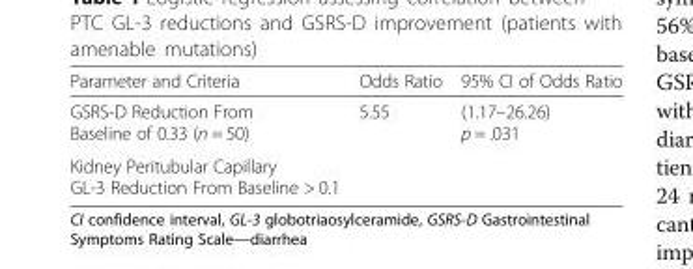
<table><thead><tr><td>Parameter and Criteria</td><td>Odds Ratio</td><td>95% CI of Odds Ratio</td></tr></thead><tbody><tr><td>GSRS-D Reduction From Baseline of 0.33 (n = 50)</td><td rowspan="2">5.55</td><td rowspan="2">(1.17–26.26) p = .031</td></tr><tr><td>Kidney Peritubular Capillary GL-3 Reduction From Baseline &gt; 0.1</td></tr></tbody></table>